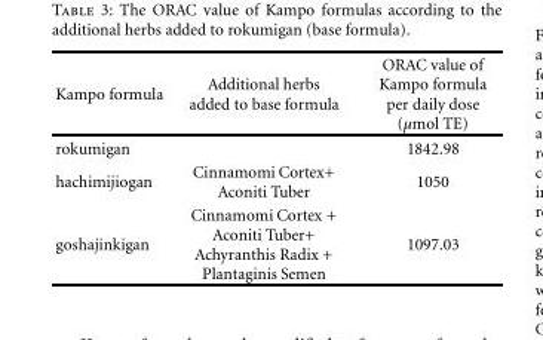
<table><thead><tr><td>Kampo formula</td><td>Additional herbs added to base formula</td><td>ORAC value of Kampo formula per daily dose (μmol TE)</td></tr></thead><tbody><tr><td>rokumigan</td><td></td><td>1842.98</td></tr><tr><td>hachimijiogan</td><td>Cinnamomi Cortex+ Aconiti Tuber</td><td>1050</td></tr><tr><td>goshajinkigan</td><td>Cinnamomi Cortex + Aconiti Tuber+ Achyranthis Radix + Plantaginis Semen</td><td>1097.03</td></tr></tbody></table>